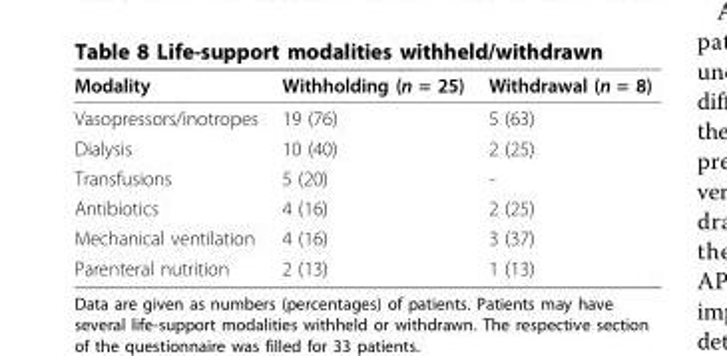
<table><thead><tr><td>Modality</td><td>Withholding (n = 25)</td><td>Withdrawal (n = 8)</td></tr></thead><tbody><tr><td>Vasopressors/inotropes</td><td>19 (76)</td><td>5 (63)</td></tr><tr><td>Dialysis</td><td>10 (40)</td><td>2 (25)</td></tr><tr><td>Transfusions</td><td>5 (20)</td><td>-</td></tr><tr><td>Antibiotics</td><td>4 (16)</td><td>2 (25)</td></tr><tr><td>Mechanical ventilation</td><td>4 (16)</td><td>3 (37)</td></tr><tr><td>Parenteral nutrition</td><td>2 (13)</td><td>1 (13)</td></tr></tbody></table>